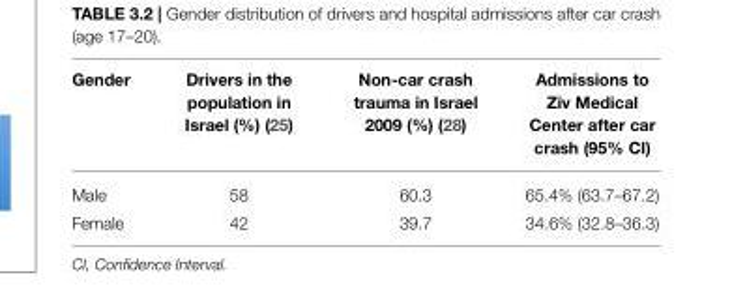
<table><thead><tr><td>Gender</td><td>Drivers in the population in Israel (%) (25)</td><td>Non-car crash trauma in Israel 2009 (%) (28)</td><td>Admissions to Ziv Medical Center after car crash (95% CI)</td></tr></thead><tbody><tr><td>Male</td><td>58</td><td>60.3</td><td>65.4% (63.7–67.2)</td></tr><tr><td>Female</td><td>42</td><td>39.7</td><td>34.6% (32.8–36.3)</td></tr></tbody></table>